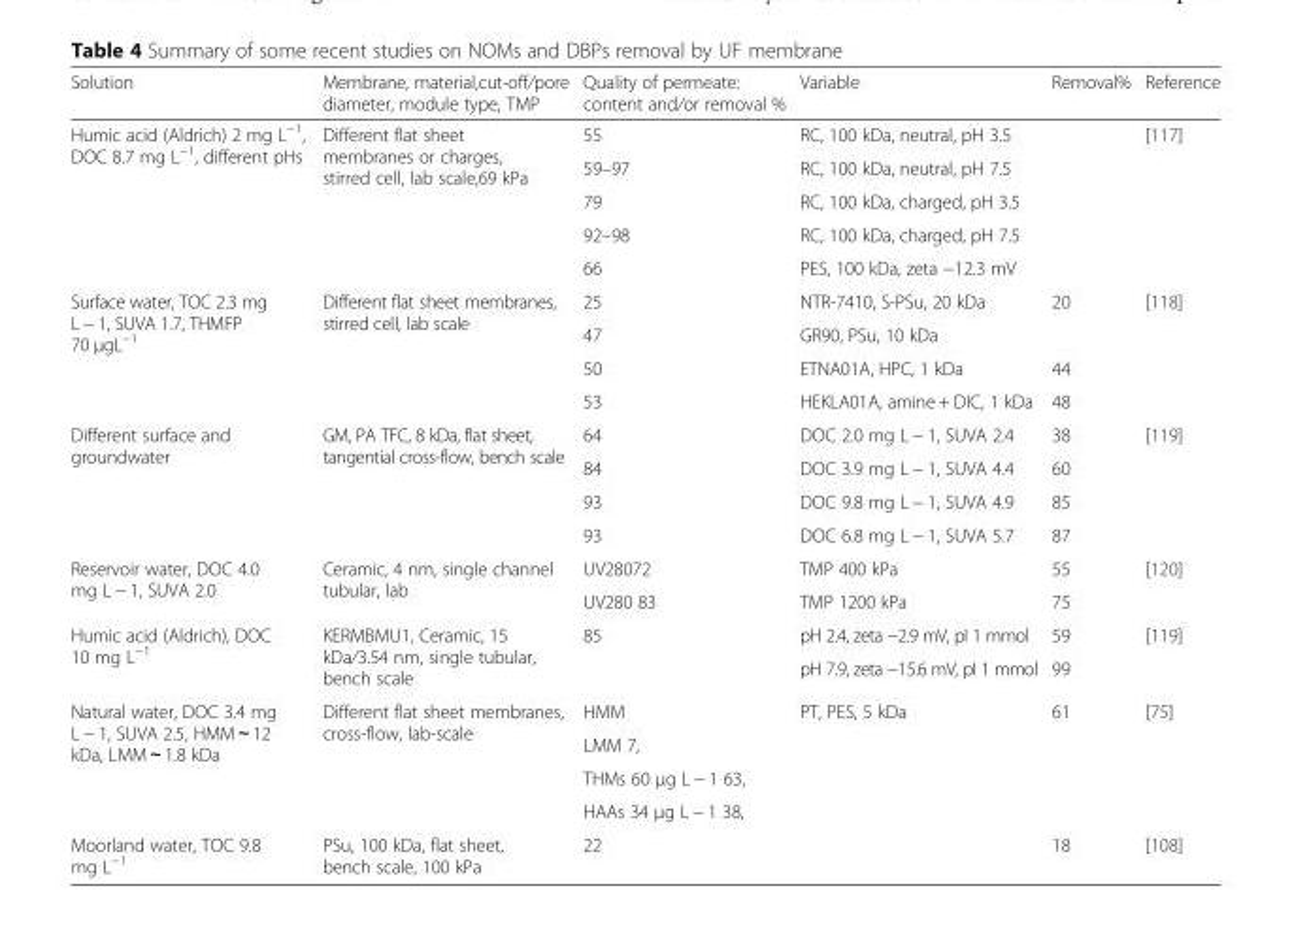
<table><thead><tr><td>Solution</td><td>Membrane, material,cut-off/pore diameter, module type, TMP</td><td>Quality of permeate: content and/or removal %</td><td>Variable</td><td>Removal%</td><td>Reference</td></tr></thead><tbody><tr><td rowspan="5">Humic acid (Aldrich) 2 mg L<sup>−1</sup>, DOC 8.7 mg L<sup>−1</sup>, different pHs</td><td rowspan="5">Different flat sheet membranes or charges, stirred cell, lab scale,69 kPa</td><td>55</td><td>RC, 100 kDa, neutral, pH 3.5</td><td rowspan="5"></td><td rowspan="5">[117]</td></tr><tr><td>59–97</td><td>RC, 100 kDa, neutral, pH 7.5</td></tr><tr><td>79</td><td>RC, 100 kDa, charged, pH 3.5</td></tr><tr><td>92–98</td><td>RC, 100 kDa, charged, pH 7.5</td></tr><tr><td>66</td><td>PES, 100 kDa, zeta −12.3 mV</td></tr><tr><td rowspan="4">Surface water, TOC 2.3 mg L − 1, SUVA 1.7, THMFP 70 μgL<sup>−1</sup></td><td rowspan="4">Different flat sheet membranes, stirred cell, lab scale</td><td>25</td><td>NTR-7410, S-PSu, 20 kDa</td><td>20</td><td rowspan="4">[118]</td></tr><tr><td>47</td><td>GR90, PSu, 10 kDa</td><td></td></tr><tr><td>50</td><td>ETNA01A, HPC, 1 kDa</td><td>44</td></tr><tr><td>53</td><td>HEKLA01A, amine + DIC, 1 kDa</td><td>48</td></tr><tr><td rowspan="4">Different surface and groundwater</td><td rowspan="4">GM, PA TFC, 8 kDa, flat sheet, tangential cross-flow, bench scale</td><td>64</td><td>DOC 2.0 mg L − 1, SUVA 2.4</td><td>38</td><td rowspan="4">[119]</td></tr><tr><td>84</td><td>DOC 3.9 mg L − 1, SUVA 4.4</td><td>60</td></tr><tr><td>93</td><td>DOC 9.8 mg L − 1, SUVA 4.9</td><td>85</td></tr><tr><td>93</td><td>DOC 6.8 mg L − 1, SUVA 5.7</td><td>87</td></tr><tr><td rowspan="2">Reservoir water, DOC 4.0 mg L − 1, SUVA 2.0</td><td rowspan="2">Ceramic, 4 nm, single channel tubular, lab</td><td>UV28072</td><td>TMP 400 kPa</td><td>55</td><td rowspan="2">[120]</td></tr><tr><td>UV280 83</td><td>TMP 1200 kPa</td><td>75</td></tr><tr><td rowspan="2">Humic acid (Aldrich), DOC 10 mg L<sup>−1</sup></td><td rowspan="2">KERMBMU1, Ceramic, 15 kDa/3.54 nm, single tubular, bench scale</td><td rowspan="2">85</td><td>pH 2.4, zeta −2.9 mV, pI 1 mmol</td><td>59</td><td rowspan="2">[119]</td></tr><tr><td>pH 7.9, zeta −15.6 mV, pI 1 mmol</td><td>99</td></tr><tr><td rowspan="4">Natural water, DOC 3.4 mg L − 1, SUVA 2.5, HMM ∼ 12 kDa, LMM ∼ 1.8 kDa</td><td rowspan="4">Different flat sheet membranes, cross-flow, lab-scale</td><td>HMM</td><td rowspan="4">PT, PES, 5 kDa</td><td rowspan="4">61</td><td rowspan="4">[75]</td></tr><tr><td>LMM 7,</td></tr><tr><td>THMs 60 μg L − 1 63,</td></tr><tr><td>HAAs 34 μg L − 1 38,</td></tr><tr><td>Moorland water, TOC 9.8 mg L<sup>−1</sup></td><td>PSu, 100 kDa, flat sheet, bench scale, 100 kPa</td><td>22</td><td></td><td>18</td><td>[108]</td></tr></tbody></table>